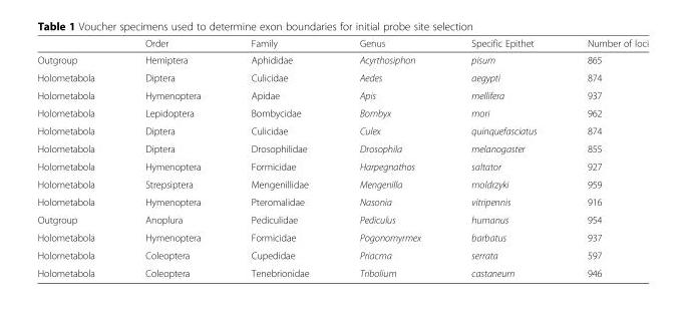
<table><thead><tr><td></td><td>Order</td><td>Family</td><td>Genus</td><td>Specific Epithet</td><td>Number of loci</td></tr></thead><tbody><tr><td>Outgroup</td><td>Hemiptera</td><td>Aphididae</td><td>Acyrthosiphon</td><td>pisum</td><td>865</td></tr><tr><td>Holometabola</td><td>Diptera</td><td>Culicidae</td><td>Aedes</td><td>aegypti</td><td>874</td></tr><tr><td>Holometabola</td><td>Hymenoptera</td><td>Apidae</td><td>Apis</td><td>mellifera</td><td>937</td></tr><tr><td>Holometabola</td><td>Lepidoptera</td><td>Bombycidae</td><td>Bombyx</td><td>mori</td><td>962</td></tr><tr><td>Holometabola</td><td>Diptera</td><td>Culicidae</td><td>Culex</td><td>quinquefasciatus</td><td>874</td></tr><tr><td>Holometabola</td><td>Diptera</td><td>Drosophilidae</td><td>Drosophila</td><td>melanogaster</td><td>855</td></tr><tr><td>Holometabola</td><td>Hymenoptera</td><td>Formicidae</td><td>Harpegnathos</td><td>saltator</td><td>927</td></tr><tr><td>Holometabola</td><td>Strepsiptera</td><td>Mengenillidae</td><td>Mengenilla</td><td>moldrzyki</td><td>959</td></tr><tr><td>Holometabola</td><td>Hymenoptera</td><td>Pteromalidae</td><td>Nasonia</td><td>vitripennis</td><td>916</td></tr><tr><td>Outgroup</td><td>Anoplura</td><td>Pediculidae</td><td>Pediculus</td><td>humanus</td><td>954</td></tr><tr><td>Holometabola</td><td>Hymenoptera</td><td>Formicidae</td><td>Pogonomyrmex</td><td>barbatus</td><td>937</td></tr><tr><td>Holometabola</td><td>Coleoptera</td><td>Cupedidae</td><td>Priacma</td><td>serrata</td><td>597</td></tr><tr><td>Holometabola</td><td>Coleoptera</td><td>Tenebrionidae</td><td>Tribolium</td><td>castaneum</td><td>946</td></tr></tbody></table>